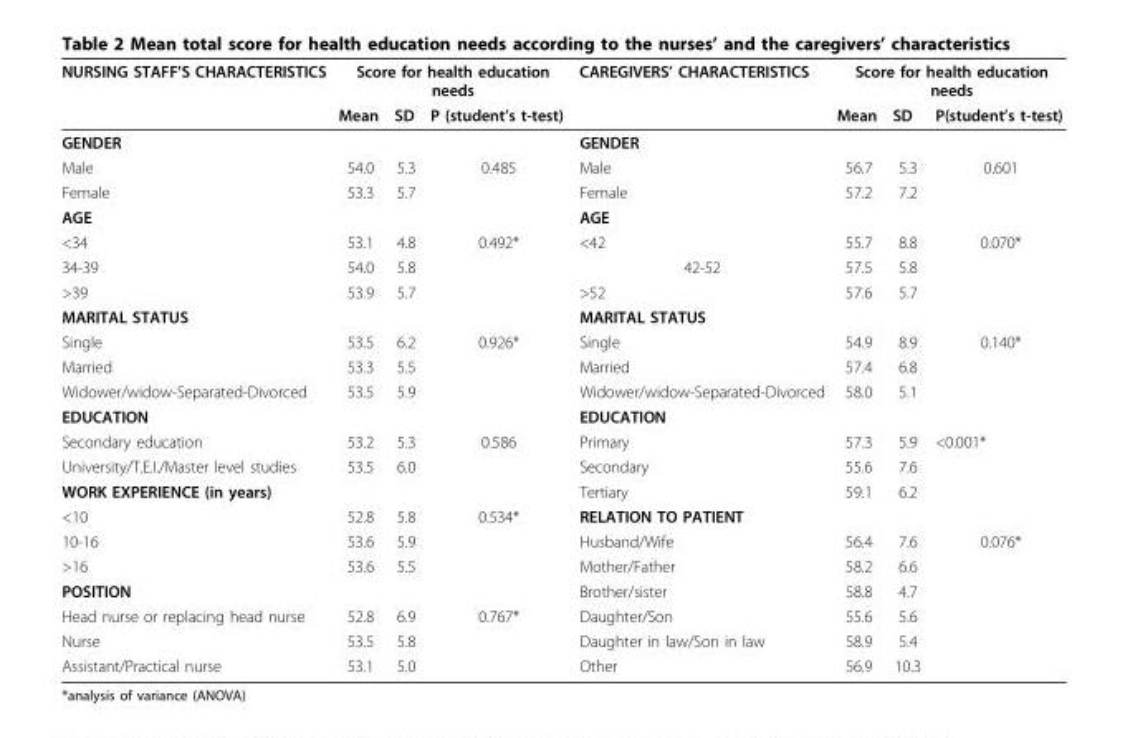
<table><thead><tr><td rowspan="2">NURSING STAFF’S CHARACTERISTICS</td><td colspan="3">Score for health education needs</td><td rowspan="2">CAREGIVERS’ CHARACTERISTICS</td><td colspan="3">Score for health education needs</td></tr><tr><td>Mean</td><td>SD</td><td>P (student’s t-test)</td><td>Mean</td><td>SD</td><td>P(student’s t-test)</td></tr></thead><tbody><tr><td>GENDER</td><td></td><td></td><td></td><td>GENDER</td><td></td><td></td><td></td></tr><tr><td>Male</td><td>54.0</td><td>5.3</td><td>0.485</td><td>Male</td><td>56.7</td><td>5.3</td><td>0.601</td></tr><tr><td>Female</td><td>53.3</td><td>5.7</td><td></td><td>Female</td><td>57.2</td><td>7.2</td><td></td></tr><tr><td>AGE</td><td></td><td></td><td></td><td>AGE</td><td></td><td></td><td></td></tr><tr><td>&lt;34</td><td>53.1</td><td>4.8</td><td>0.492*</td><td>&lt;42</td><td>55.7</td><td>8.8</td><td>0.070*</td></tr><tr><td>34-39</td><td>54.0</td><td>5.8</td><td></td><td>42-52</td><td>57.5</td><td>5.8</td><td></td></tr><tr><td>&gt;39</td><td>53.9</td><td>5.7</td><td></td><td>&gt;52</td><td>57.6</td><td>5.7</td><td></td></tr><tr><td>MARITAL STATUS</td><td></td><td></td><td></td><td>MARITAL STATUS</td><td></td><td></td><td></td></tr><tr><td>Single</td><td>53.5</td><td>6.2</td><td>0.926*</td><td>Single</td><td>54.9</td><td>8.9</td><td>0.140*</td></tr><tr><td>Married</td><td>53.3</td><td>5.5</td><td></td><td>Married</td><td>57.4</td><td>6.8</td><td></td></tr><tr><td>Widower/widow-Separated-Divorced</td><td>53.5</td><td>5.9</td><td></td><td>Widower/widow-Separated-Divorced</td><td>58.0</td><td>5.1</td><td></td></tr><tr><td>EDUCATION</td><td></td><td></td><td></td><td>EDUCATION</td><td></td><td></td><td></td></tr><tr><td>Secondary education</td><td>53.2</td><td>5.3</td><td>0.586</td><td>Primary</td><td>57.3</td><td>5.9</td><td>&lt;0.001*</td></tr><tr><td>University/T.E.I./Master level studies</td><td>53.5</td><td>6.0</td><td></td><td>Secondary</td><td>55.6</td><td>7.6</td><td></td></tr><tr><td>WORK EXPERIENCE (in years)</td><td></td><td></td><td></td><td>Tertiary</td><td>59.1</td><td>6.2</td><td></td></tr><tr><td>&lt;10</td><td>52.8</td><td>5.8</td><td>0.534*</td><td>RELATION TO PATIENT</td><td></td><td></td><td></td></tr><tr><td>10-16</td><td>53.6</td><td>5.9</td><td></td><td>Husband/Wife</td><td>56.4</td><td>7.6</td><td>0.076*</td></tr><tr><td>&gt;16</td><td>53.6</td><td>5.5</td><td></td><td>Mother/Father</td><td>58.2</td><td>6.6</td><td></td></tr><tr><td>POSITION</td><td></td><td></td><td></td><td>Brother/sister</td><td>58.8</td><td>4.7</td><td></td></tr><tr><td>Head nurse or replacing head nurse</td><td>52.8</td><td>6.9</td><td>0.767*</td><td>Daughter/Son</td><td>55.6</td><td>5.6</td><td></td></tr><tr><td>Nurse</td><td>53.5</td><td>5.8</td><td></td><td>Daughter in law/Son in law</td><td>58.9</td><td>5.4</td><td></td></tr><tr><td>Assistant/Practical nurse</td><td>53.1</td><td>5.0</td><td></td><td>Other</td><td>56.9</td><td>10.3</td><td></td></tr></tbody></table>